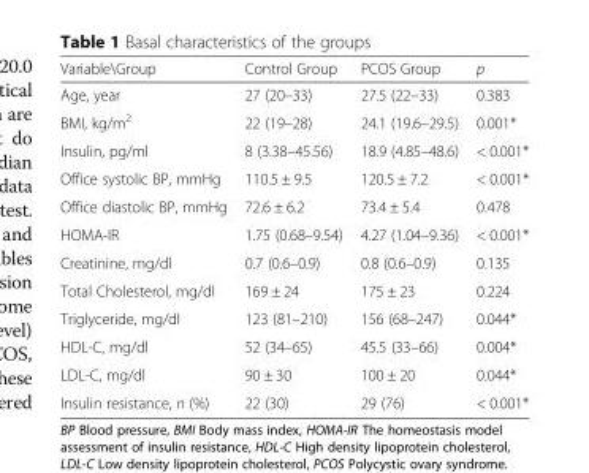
<table><thead><tr><td>Variable\Group</td><td>Control Group</td><td>PCOS Group</td><td>p</td></tr></thead><tbody><tr><td>Age, year</td><td>27 (20–33)</td><td>27.5 (22–33)</td><td>0.383</td></tr><tr><td>BMI, kg/m<sup>2</sup></td><td>22 (19–28)</td><td>24.1 (19.6–29.5)</td><td>0.001*</td></tr><tr><td>Insulin, pg/ml</td><td>8 (3.38–45.56)</td><td>18.9 (4.85–48.6)</td><td>&lt; 0.001*</td></tr><tr><td>Office systolic BP, mmHg</td><td>110.5 ± 9.5</td><td>120.5 ± 7.2</td><td>&lt; 0.001*</td></tr><tr><td>Office diastolic BP, mmHg</td><td>72.6 ± 6.2</td><td>73.4 ± 5.4</td><td>0.478</td></tr><tr><td>HOMA-IR</td><td>1.75 (0.68–9.54)</td><td>4.27 (1.04–9.36)</td><td>&lt; 0.001*</td></tr><tr><td>Creatinine, mg/dl</td><td>0.7 (0.6–0.9)</td><td>0.8 (0.6–0.9)</td><td>0.135</td></tr><tr><td>Total Cholesterol, mg/dl</td><td>169 ± 24</td><td>175 ± 23</td><td>0.224</td></tr><tr><td>Triglyceride, mg/dl</td><td>123 (81–210)</td><td>156 (68–247)</td><td>0.044*</td></tr><tr><td>HDL-C, mg/dl</td><td>52 (34–65)</td><td>45.5 (33–66)</td><td>0.004*</td></tr><tr><td>LDL-C, mg/dl</td><td>90 ± 30</td><td>100 ± 20</td><td>0.044*</td></tr><tr><td>Insulin resistance, n (%)</td><td>22 (30)</td><td>29 (76)</td><td>&lt; 0.001*</td></tr></tbody></table>